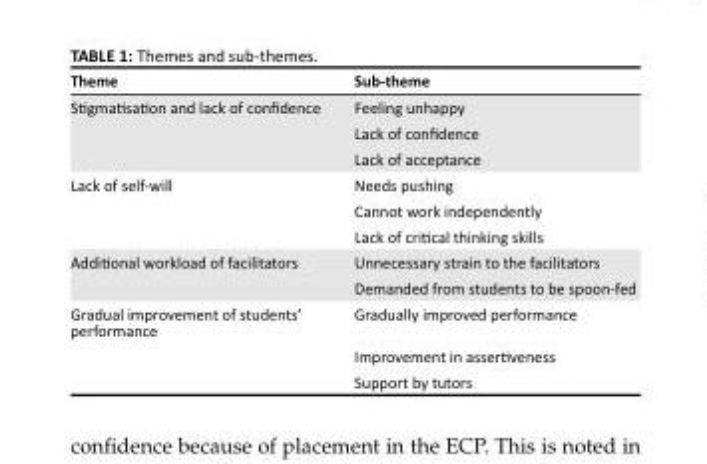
<table><thead><tr><td>Theme</td><td>Sub-theme</td></tr></thead><tbody><tr><td rowspan="3">Stigmatisation and lack of confidence</td><td>Feeling unhappy</td></tr><tr><td>Lack of confidence</td></tr><tr><td>Lack of acceptance</td></tr><tr><td rowspan="3">Lack of self-will</td><td>Needs pushing</td></tr><tr><td>Cannot work independently</td></tr><tr><td>Lack of critical thinking skills</td></tr><tr><td rowspan="2">Additional workload of facilitators</td><td>Unnecessary strain to the facilitators</td></tr><tr><td>Demanded from students to be spoon-fed</td></tr><tr><td rowspan="3">Gradual improvement of students’ performance</td><td>Gradually improved performance</td></tr><tr><td>Improvement in assertiveness</td></tr><tr><td>Support by tutors</td></tr></tbody></table>